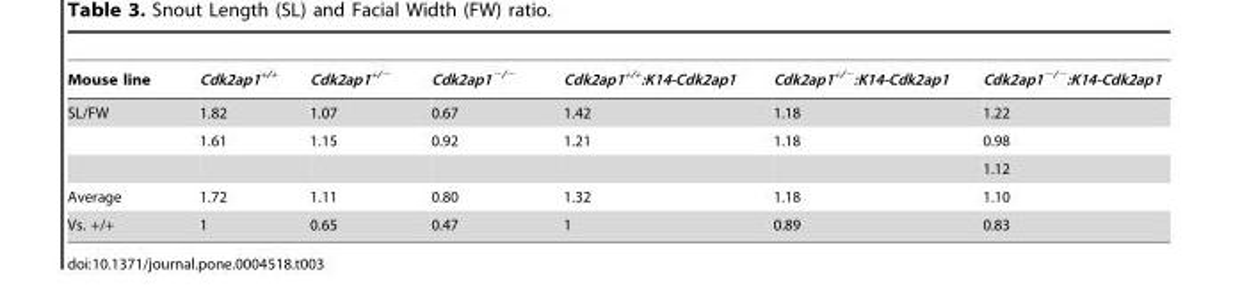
<table><thead><tr><td>Mouse line</td><td>Cdk2ap1<sup>+/+</sup></td><td>Cdk2ap1<sup>+/−</sup></td><td>Cdk2ap1<sup>−/−</sup></td><td>Cdk2ap1<sup>+/+</sup>:K14-Cdk2ap1</td><td>Cdk2ap1<sup>+/−</sup>:K14-Cdk2ap1</td><td>Cdk2ap1<sup>−/−</sup>:K14-Cdk2ap1</td></tr></thead><tbody><tr><td rowspan="3">SL/FW</td><td>1.82</td><td>1.07</td><td>0.67</td><td>1.42</td><td>1.18</td><td>1.22</td></tr><tr><td>1.61</td><td>1.15</td><td>0.92</td><td>1.21</td><td>1.18</td><td>0.98</td></tr><tr><td></td><td></td><td></td><td></td><td></td><td>1.12</td></tr><tr><td>Average</td><td>1.72</td><td>1.11</td><td>0.80</td><td>1.32</td><td>1.18</td><td>1.10</td></tr><tr><td>Vs. +/+</td><td>1</td><td>0.65</td><td>0.47</td><td>1</td><td>0.89</td><td>0.83</td></tr></tbody></table>